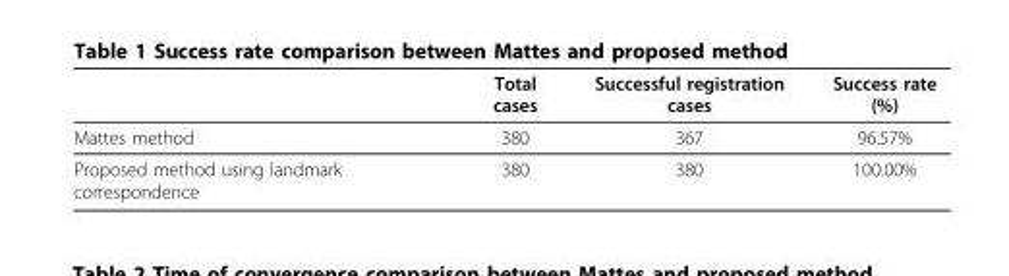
<table><thead><tr><td></td><td>Total cases</td><td>Successful registration cases</td><td>Success rate (%)</td></tr></thead><tbody><tr><td>Mattes method</td><td>380</td><td>367</td><td>96.57%</td></tr><tr><td>Proposed method using landmark correspondence</td><td>380</td><td>380</td><td>100.00%</td></tr></tbody></table>